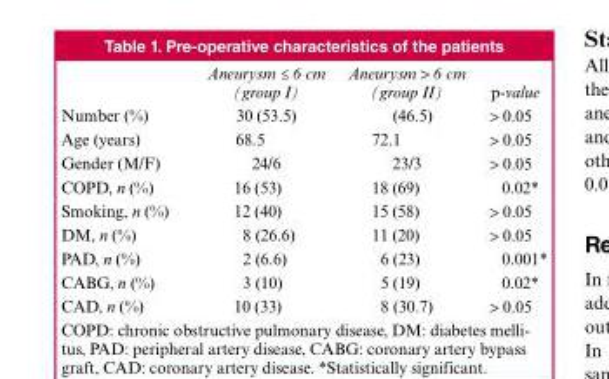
<table><thead><tr><td></td><td>Aneurysm ≤ 6 cm (group I)</td><td>Aneurysm &gt; 6 cm (group II)</td><td>p-value</td></tr></thead><tbody><tr><td>Number (%)</td><td>30 (53.5)</td><td>(46.5)</td><td>&gt; 0.05</td></tr><tr><td>Age (years)</td><td>68.5</td><td>72.1</td><td>&gt; 0.05</td></tr><tr><td>Gender (M/F)</td><td>24/6</td><td>23/3</td><td>&gt; 0.05</td></tr><tr><td>COPD, n (%)</td><td>16 (53)</td><td>18 (69)</td><td>0.02*</td></tr><tr><td>Smoking, n (%)</td><td>12 (40)</td><td>15 (58)</td><td>&gt; 0.05</td></tr><tr><td>DM, n (%)</td><td>8 (26.6)</td><td>11 (20)</td><td>&gt; 0.05</td></tr><tr><td>PAD, n (%)</td><td>2 (6.6)</td><td>6 (23)</td><td>0.001*</td></tr><tr><td>CABG, n (%)</td><td>3 (10)</td><td>5 (19)</td><td>0.02*</td></tr><tr><td>CAD, n (%)</td><td>10 (33)</td><td>8 (30.7)</td><td>&gt; 0.05</td></tr></tbody></table>